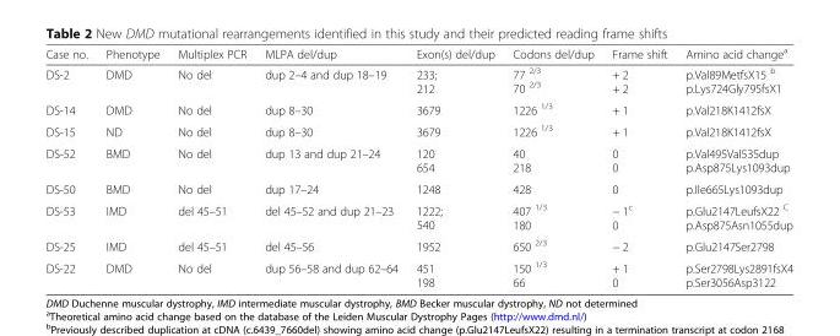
<table><thead><tr><td>Case no.</td><td>Phenotype</td><td>Multiplex PCR</td><td>MLPA del/dup</td><td>Exon(s) del/dup</td><td>Codons del/dup</td><td>Frame shift</td><td>Amino acid change<sup>a</sup></td></tr></thead><tbody><tr><td>DS-2</td><td>DMD</td><td>No del</td><td>dup 2–4 and dup 18–19</td><td>233; 212</td><td>77 <sup>2/3</sup> 70 <sup>2/3</sup></td><td>+ 2 + 2</td><td>p.Val89MetfsX15 <sup>b</sup> p.Lys724Gly795fsX1</td></tr><tr><td>DS-14</td><td>DMD</td><td>No del</td><td>dup 8–30</td><td>3679</td><td>1226 <sup>1/3</sup></td><td>+ 1</td><td>p.Val218K1412fsX</td></tr><tr><td>DS-15</td><td>ND</td><td>No del</td><td>dup 8–30</td><td>3679</td><td>1226 <sup>1/3</sup></td><td>+ 1</td><td>p.Val218K1412fsX</td></tr><tr><td>DS-52</td><td>BMD</td><td>No del</td><td>dup 13 and dup 21–24</td><td>120 654</td><td>40 218</td><td>0 0</td><td>p.Val495Val535dup p.Asp875Lys1093dup</td></tr><tr><td>DS-50</td><td>BMD</td><td>No del</td><td>dup 17–24</td><td>1248</td><td>428</td><td>0</td><td>p.Ile665Lys1093dup</td></tr><tr><td>DS-53</td><td>IMD</td><td>del 45–51</td><td>del 45–52 and dup 21–23</td><td>1222; 540</td><td>407 <sup>1/3</sup> 180</td><td>− 1<sup>c</sup> 0</td><td>p.Glu2147LeufsX22 <sup>C</sup> p.Asp875Asn1055dup</td></tr><tr><td>DS-25</td><td>IMD</td><td>del 45–51</td><td>del 45–56</td><td>1952</td><td>650 <sup>2/3</sup></td><td>− 2</td><td>p.Glu2147Ser2798</td></tr><tr><td>DS-22</td><td>DMD</td><td>No del</td><td>dup 56–58 and dup 62–64</td><td>451 198</td><td>150 <sup>1/3</sup> 66</td><td>+ 1 0</td><td>p.Ser2798Lys2891fsX4 p.Ser3056Asp3122</td></tr></tbody></table>